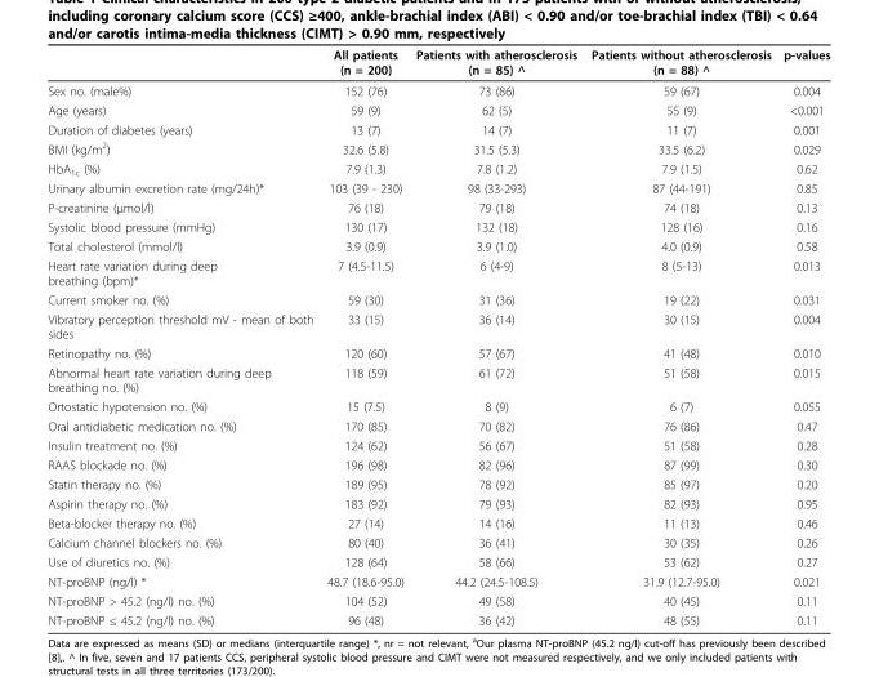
<table><thead><tr><td></td><td>All patients (n = 200)</td><td>Patients with atherosclerosis (n = 85) ^</td><td>Patients without atherosclerosis (n = 88) ^</td><td>p-values</td></tr></thead><tbody><tr><td>Sex no. (male%)</td><td>152 (76)</td><td>73 (86)</td><td>59 (67)</td><td>0.004</td></tr><tr><td>Age (years)</td><td>59 (9)</td><td>62 (5)</td><td>55 (9)</td><td>&lt;0.001</td></tr><tr><td>Duration of diabetes (years)</td><td>13 (7)</td><td>14 (7)</td><td>11 (7)</td><td>0.001</td></tr><tr><td>BMI (kg/m<sup>2</sup>)</td><td>32.6 (5.8)</td><td>31.5 (5.3)</td><td>33.5 (6.2)</td><td>0.029</td></tr><tr><td>HbA<sub>1c</sub> (%)</td><td>7.9 (1.3)</td><td>7.8 (1.2)</td><td>7.9 (1.5)</td><td>0.62</td></tr><tr><td>Urinary albumin excretion rate (mg/24h)*</td><td>103 (39 - 230)</td><td>98 (33-293)</td><td>87 (44-191)</td><td>0.85</td></tr><tr><td>P-creatinine (μmol/l)</td><td>76 (18)</td><td>79 (18)</td><td>74 (18)</td><td>0.13</td></tr><tr><td>Systolic blood pressure (mmHg)</td><td>130 (17)</td><td>132 (18)</td><td>128 (16)</td><td>0.16</td></tr><tr><td>Total cholesterol (mmol/l)</td><td>3.9 (0.9)</td><td>3.9 (1.0)</td><td>4.0 (0.9)</td><td>0.58</td></tr><tr><td>Heart rate variation during deep breathing (bpm)*</td><td>7 (4.5-11.5)</td><td>6 (4-9)</td><td>8 (5-13)</td><td>0.013</td></tr><tr><td>Current smoker no. (%)</td><td>59 (30)</td><td>31 (36)</td><td>19 (22)</td><td>0.031</td></tr><tr><td>Vibratory perception threshold mV - mean of both sides</td><td>33 (15)</td><td>36 (14)</td><td>30 (15)</td><td>0.004</td></tr><tr><td>Retinopathy no. (%)</td><td>120 (60)</td><td>57 (67)</td><td>41 (48)</td><td>0.010</td></tr><tr><td>Abnormal heart rate variation during deep breathing no. (%)</td><td>118 (59)</td><td>61 (72)</td><td>51 (58)</td><td>0.015</td></tr><tr><td>Ortostatic hypotension no. (%)</td><td>15 (7.5)</td><td>8 (9)</td><td>6 (7)</td><td>0.055</td></tr><tr><td>Oral antidiabetic medication no. (%)</td><td>170 (85)</td><td>70 (82)</td><td>76 (86)</td><td>0.47</td></tr><tr><td>Insulin treatment no. (%)</td><td>124 (62)</td><td>56 (67)</td><td>51 (58)</td><td>0.28</td></tr><tr><td>RAAS blockade no. (%)</td><td>196 (98)</td><td>82 (96)</td><td>87 (99)</td><td>0.30</td></tr><tr><td>Statin therapy no. (%)</td><td>189 (95)</td><td>78 (92)</td><td>85 (97)</td><td>0.20</td></tr><tr><td>Aspirin therapy no. (%)</td><td>183 (92)</td><td>79 (93)</td><td>82 (93)</td><td>0.95</td></tr><tr><td>Beta-blocker therapy no. (%)</td><td>27 (14)</td><td>14 (16)</td><td>11 (13)</td><td>0.46</td></tr><tr><td>Calcium channel blockers no. (%)</td><td>80 (40)</td><td>36 (41)</td><td>30 (35)</td><td>0.26</td></tr><tr><td>Use of diuretics no. (%)</td><td>128 (64)</td><td>58 (66)</td><td>53 (62)</td><td>0.27</td></tr><tr><td>NT-proBNP (ng/l) *</td><td>48.7 (18.6-95.0)</td><td>44.2 (24.5-108.5)</td><td>31.9 (12.7-95.0)</td><td>0.021</td></tr><tr><td>NT-proBNP &gt; 45.2 (ng/l) no. (%)</td><td>104 (52)</td><td>49 (58)</td><td>40 (45)</td><td>0.11</td></tr><tr><td>NT-proBNP ≤ 45.2 (ng/l) no. (%)</td><td>96 (48)</td><td>36 (42)</td><td>48 (55)</td><td>0.11</td></tr></tbody></table>